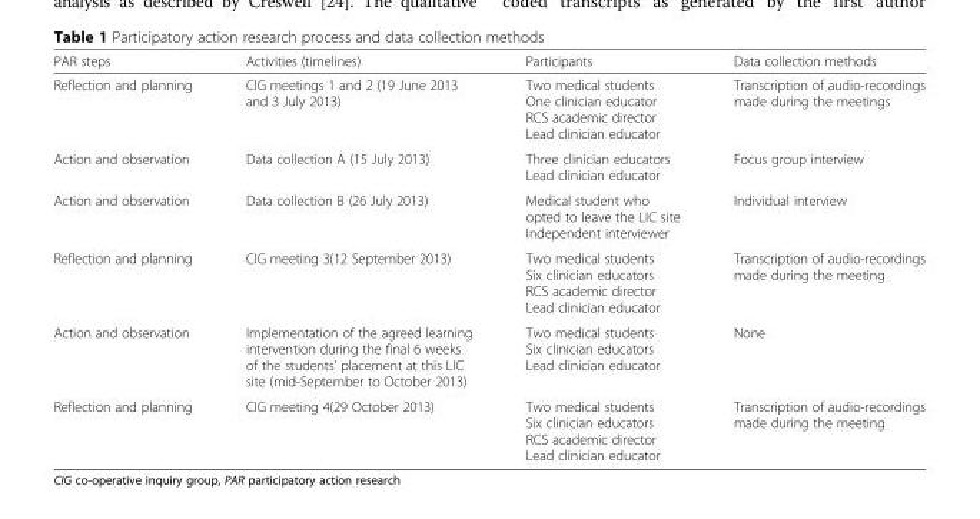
<table><thead><tr><td>PAR steps</td><td>Activities (timelines)</td><td>Participants</td><td>Data collection methods</td></tr></thead><tbody><tr><td>Reflection and planning</td><td>CIG meetings 1 and 2 (19 June 2013 and 3 July 2013)</td><td>Two medical students One clinician educator RCS academic director Lead clinician educator</td><td>Transcription of audio-recordings made during the meetings</td></tr><tr><td>Action and observation</td><td>Data collection A (15 July 2013)</td><td>Three clinician educators Lead clinician educator</td><td>Focus group interview</td></tr><tr><td>Action and observation</td><td>Data collection B (26 July 2013)</td><td>Medical student who opted to leave the LIC site Independent interviewer</td><td>Individual interview</td></tr><tr><td>Reflection and planning</td><td>CIG meeting 3(12 September 2013)</td><td>Two medical students Six clinician educators RCS academic director Lead clinician educator</td><td>Transcription of audio-recordings made during the meeting</td></tr><tr><td>Action and observation</td><td>Implementation of the agreed learning intervention during the final 6 weeks of the students’ placement at this LIC site (mid-September to October 2013)</td><td>Two medical students Six clinician educators Lead clinician educator</td><td>None</td></tr><tr><td>Reflection and planning</td><td>CIG meeting 4(29 October 2013)</td><td>Two medical students Six clinician educators RCS academic director Lead clinician educator</td><td>Transcription of audio-recordings made during the meeting</td></tr></tbody></table>